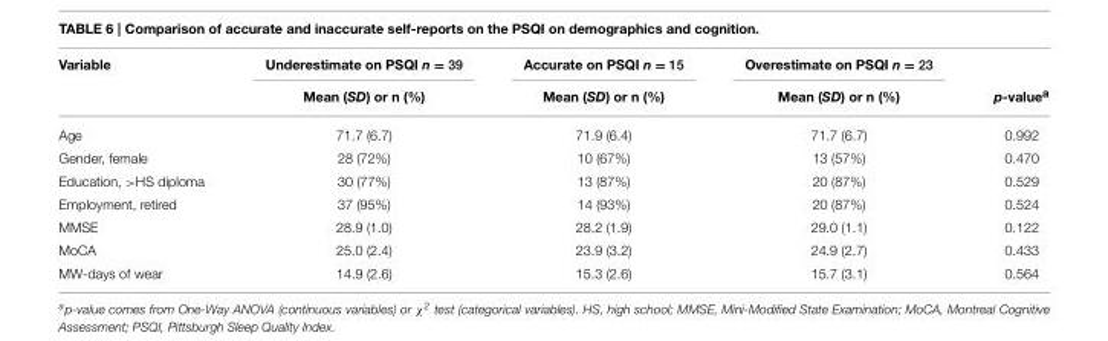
<table><thead><tr><td rowspan="2">Variable</td><td rowspan="2">Underestimate on PSQI n = 39 Mean (SD) or n (%)</td><td rowspan="2">Accurate on PSQI n = 15 Mean (SD) or n (%)</td><td rowspan="2">Overestimate on PSQI n = 23 Mean (SD) or n (%)</td><td rowspan="2">p-value<sup>a</sup></td></tr><tr></tr></thead><tbody><tr><td>Age</td><td>71.7 (6.7)</td><td>71.9 (6.4)</td><td>71.7 (6.7)</td><td>0.992</td></tr><tr><td>Gender, female</td><td>28 (72%)</td><td>10 (67%)</td><td>13 (57%)</td><td>0.470</td></tr><tr><td>Education, &gt;HS diploma</td><td>30 (77%)</td><td>13 (87%)</td><td>20 (87%)</td><td>0.529</td></tr><tr><td>Employment, retired</td><td>37 (95%)</td><td>14 (93%)</td><td>20 (87%)</td><td>0.524</td></tr><tr><td>MMSE</td><td>28.9 (1.0)</td><td>28.2 (1.9)</td><td>29.0 (1.1)</td><td>0.122</td></tr><tr><td>MoCA</td><td>25.0 (2.4)</td><td>23.9 (3.2)</td><td>24.9 (2.7)</td><td>0.433</td></tr><tr><td>MW-days of wear</td><td>14.9 (2.6)</td><td>15.3 (2.6)</td><td>15.7 (3.1)</td><td>0.564</td></tr></tbody></table>